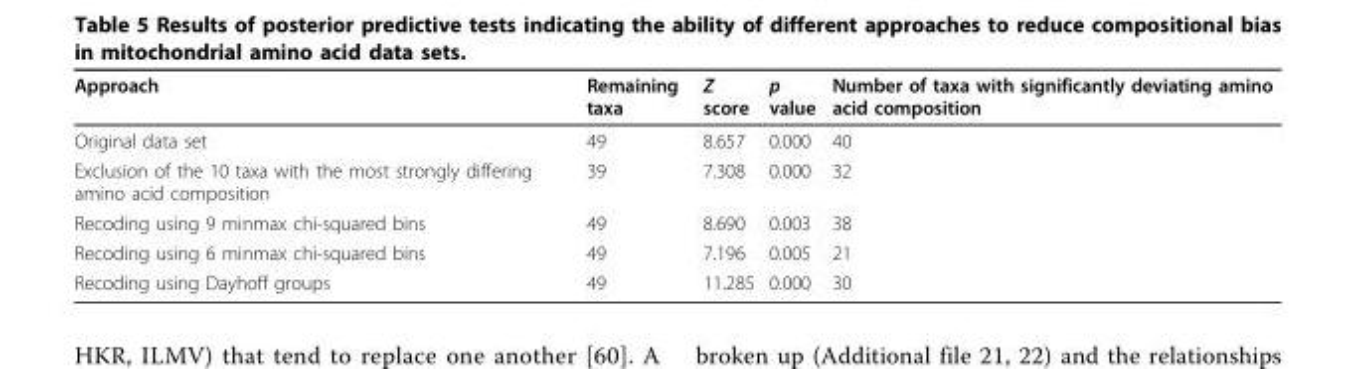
<table><thead><tr><td>Approach</td><td>Remaining taxa</td><td>Z score</td><td>p value</td><td>Number of taxa with significantly deviating amino acid composition</td></tr></thead><tbody><tr><td>Original data set</td><td>49</td><td>8.657</td><td>0.000</td><td>40</td></tr><tr><td>Exclusion of the 10 taxa with the most strongly differing amino acid composition</td><td>39</td><td>7.308</td><td>0.000</td><td>32</td></tr><tr><td>Recoding using 9 minmax chi-squared bins</td><td>49</td><td>8.690</td><td>0.003</td><td>38</td></tr><tr><td>Recoding using 6 minmax chi-squared bins</td><td>49</td><td>7.196</td><td>0.005</td><td>21</td></tr><tr><td>Recoding using Dayhoff groups</td><td>49</td><td>11.285</td><td>0.000</td><td>30</td></tr></tbody></table>